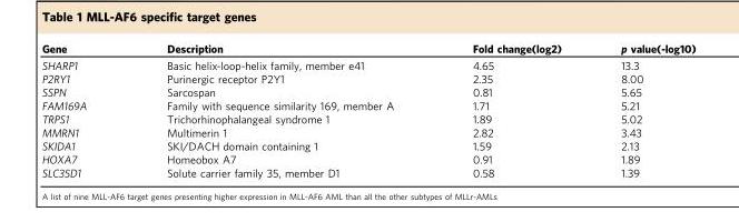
<table><thead><tr><td>Gene</td><td>Description</td><td>Fold change(log2)</td><td>p value(-log10)</td></tr></thead><tbody><tr><td>SHARP1</td><td>Basic helix-loop-helix family, member e41</td><td>4.65</td><td>13.3</td></tr><tr><td>P2RY1</td><td>Purinergic receptor P2Y1</td><td>2.35</td><td>8.00</td></tr><tr><td>SSPN</td><td>Sarcospan</td><td>0.81</td><td>5.65</td></tr><tr><td>FAM169A</td><td>Family with sequence similarity 169, member A</td><td>1.71</td><td>5.21</td></tr><tr><td>TRPS1</td><td>Trichorhinophalangeal syndrome 1</td><td>1.89</td><td>5.02</td></tr><tr><td>MMRN1</td><td>Multimerin 1</td><td>2.82</td><td>3.43</td></tr><tr><td>SKIDA1</td><td>SKI/DACH domain containing 1</td><td>1.59</td><td>2.13</td></tr><tr><td>HOXA7</td><td>Homeobox A7</td><td>0.91</td><td>1.89</td></tr><tr><td>SLC35D1</td><td>Solute carrier family 35, member D1</td><td>0.58</td><td>1.39</td></tr></tbody></table>